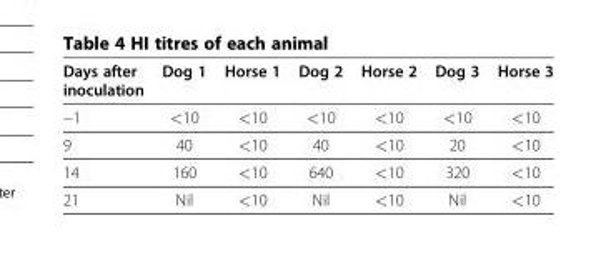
<table><thead><tr><td>Days after inoculation</td><td>Dog 1</td><td>Horse 1</td><td>Dog 2</td><td>Horse 2</td><td>Dog 3</td><td>Horse 3</td></tr></thead><tbody><tr><td>−1</td><td>&lt;10</td><td>&lt;10</td><td>&lt;10</td><td>&lt;10</td><td>&lt;10</td><td>&lt;10</td></tr><tr><td>9</td><td>40</td><td>&lt;10</td><td>40</td><td>&lt;10</td><td>20</td><td>&lt;10</td></tr><tr><td>14</td><td>160</td><td>&lt;10</td><td>640</td><td>&lt;10</td><td>320</td><td>&lt;10</td></tr><tr><td>21</td><td>Nil</td><td>&lt;10</td><td>Nil</td><td>&lt;10</td><td>Nil</td><td>&lt;10</td></tr></tbody></table>